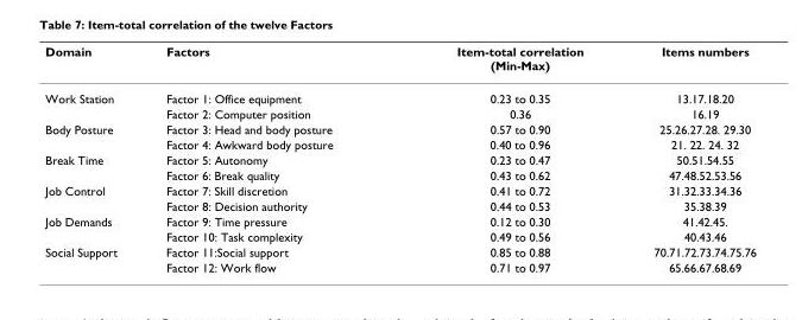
<table><thead><tr><td>Domain</td><td>Factors</td><td>Item-total correlation (Min-Max)</td><td>Items numbers</td></tr></thead><tbody><tr><td rowspan="2">Work Station</td><td>Factor 1: Office equipment</td><td>0.23 to 0.35</td><td>13.17.18.20</td></tr><tr><td>Factor 2: Computer position</td><td>0.36</td><td>16.19</td></tr><tr><td rowspan="2">Body Posture</td><td>Factor 3: Head and body posture</td><td>0.57 to 0.90</td><td>25.26.27.28. 29.30</td></tr><tr><td>Factor 4: Awkward body posture</td><td>0.40 to 0.96</td><td>21. 22. 24. 32</td></tr><tr><td rowspan="2">Break Time</td><td>Factor 5: Autonomy</td><td>0.23 to 0.47</td><td>50.51.54.55</td></tr><tr><td>Factor 6: Break quality</td><td>0.43 to 0.62</td><td>47.48.52.53.56</td></tr><tr><td rowspan="2">Job Control</td><td>Factor 7: Skill discretion</td><td>0.41 to 0.72</td><td>31.32.33.34.36</td></tr><tr><td>Factor 8: Decision authority</td><td>0.44 to 0.53</td><td>35.38.39</td></tr><tr><td rowspan="2">Job Demands</td><td>Factor 9: Time pressure</td><td>0.12 to 0.30</td><td>41.42.45.</td></tr><tr><td>Factor 10: Task complexity</td><td>0.49 to 0.56</td><td>40.43.46</td></tr><tr><td rowspan="2">Social Support</td><td>Factor 11:Social support</td><td>0.85 to 0.88</td><td>70.71.72.73.74.75.76</td></tr><tr><td>Factor 12: Work flow</td><td>0.71 to 0.97</td><td>65.66.67.68.69</td></tr></tbody></table>